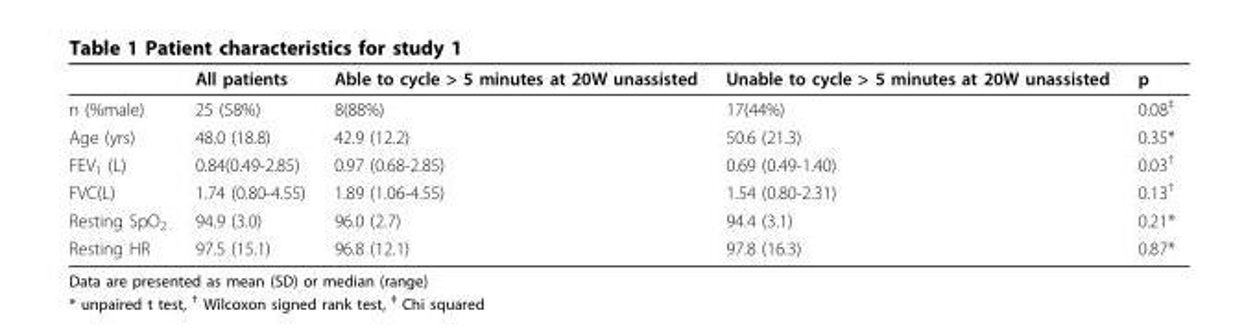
<table><thead><tr><td></td><td>All patients</td><td>Able to cycle &gt; 5 minutes at 20W unassisted</td><td>Unable to cycle &gt; 5 minutes at 20W unassisted</td><td>p</td></tr></thead><tbody><tr><td>n (%male)</td><td>25 (58%)</td><td>8(88%)</td><td>17(44%)</td><td>0.08<sup>‡</sup></td></tr><tr><td>Age (yrs)</td><td>48.0 (18.8)</td><td>42.9 (12.2)</td><td>50.6 (21.3)</td><td>0.35*</td></tr><tr><td>FEV<sub>1</sub> (L)</td><td>0.84(0.49-2.85)</td><td>0.97 (0.68-2.85)</td><td>0.69 (0.49-1.40)</td><td>0.03<sup>†</sup></td></tr><tr><td>FVC(L)</td><td>1.74 (0.80-4.55)</td><td>1.89 (1.06-4.55)</td><td>1.54 (0.80-2.31)</td><td>0.13<sup>†</sup></td></tr><tr><td>Resting SpO<sub>2</sub></td><td>94.9 (3.0)</td><td>96.0 (2.7)</td><td>94.4 (3.1)</td><td>0.21*</td></tr><tr><td>Resting HR</td><td>97.5 (15.1)</td><td>96.8 (12.1)</td><td>97.8 (16.3)</td><td>0.87*</td></tr></tbody></table>